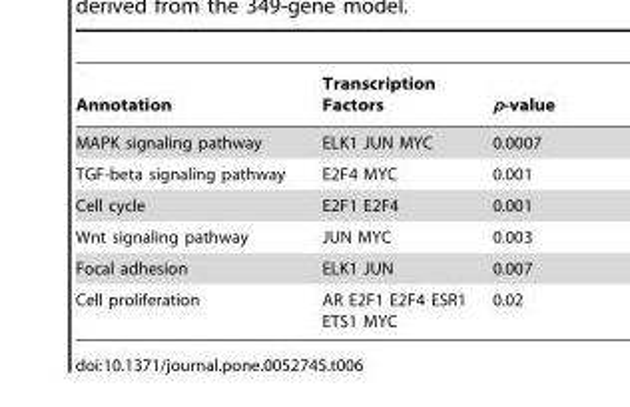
<table><thead><tr><td>Annotation</td><td>Transcription Factors</td><td>p-value</td></tr></thead><tbody><tr><td>MAPK signaling pathway</td><td>ELK1 JUN MYC</td><td>0.0007</td></tr><tr><td>TGF-beta signaling pathway</td><td>E2F4 MYC</td><td>0.001</td></tr><tr><td>Cell cycle</td><td>E2F1 E2F4</td><td>0.001</td></tr><tr><td>Wnt signaling pathway</td><td>JUN MYC</td><td>0.003</td></tr><tr><td>Focal adhesion</td><td>ELK1 JUN</td><td>0.007</td></tr><tr><td>Cell proliferation</td><td>AR E2F1 E2F4 ESR1 ETS1 MYC</td><td>0.02</td></tr></tbody></table>